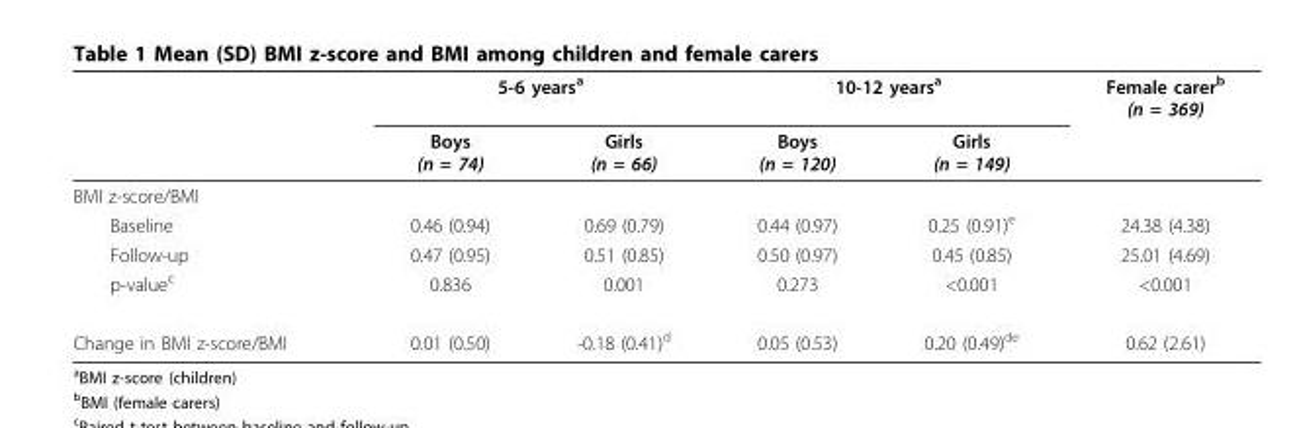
<table><thead><tr><td rowspan="2"></td><td colspan="2">5-6 years<sup>a</sup></td><td colspan="2">10-12 years<sup>a</sup></td><td rowspan="2">Female carer<sup>b</sup> (n = 369)</td></tr><tr><td>Boys (n = 74)</td><td>Girls (n = 66)</td><td>Boys (n = 120)</td><td>Girls (n = 149)</td></tr></thead><tbody><tr><td colspan="6">BMI z-score/BMI</td></tr><tr><td>Baseline</td><td>0.46 (0.94)</td><td>0.69 (0.79)</td><td>0.44 (0.97)</td><td>0.25 (0.91)<sup>e</sup></td><td>24.38 (4.38)</td></tr><tr><td>Follow-up</td><td>0.47 (0.95)</td><td>0.51 (0.85)</td><td>0.50 (0.97)</td><td>0.45 (0.85)</td><td>25.01 (4.69)</td></tr><tr><td>p-value<sup>c</sup></td><td>0.836</td><td>0.001</td><td>0.273</td><td>&lt;0.001</td><td>&lt;0.001</td></tr><tr><td>Change in BMI z-score/BMI</td><td>0.01 (0.50)</td><td>-0.18 (0.41)<sup>d</sup></td><td>0.05 (0.53)</td><td>0.20 (0.49)<sup>de</sup></td><td>0.62 (2.61)</td></tr></tbody></table>